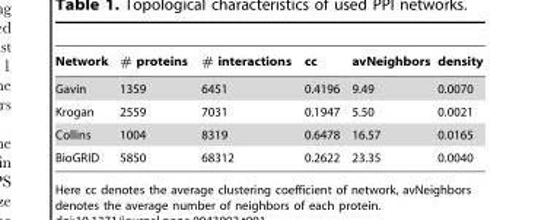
<table><thead><tr><td>Network</td><td># proteins</td><td># interactions</td><td>cc</td><td>avNeighbors</td><td>density</td></tr></thead><tbody><tr><td>Gavin</td><td>1359</td><td>6451</td><td>0.4196</td><td>9.49</td><td>0.0070</td></tr><tr><td>Krogan</td><td>2559</td><td>7031</td><td>0.1947</td><td>5.50</td><td>0.0021</td></tr><tr><td>Collins</td><td>1004</td><td>8319</td><td>0.6478</td><td>16.57</td><td>0.0165</td></tr><tr><td>BioGRID</td><td>5850</td><td>68312</td><td>0.2622</td><td>23.35</td><td>0.0040</td></tr></tbody></table>